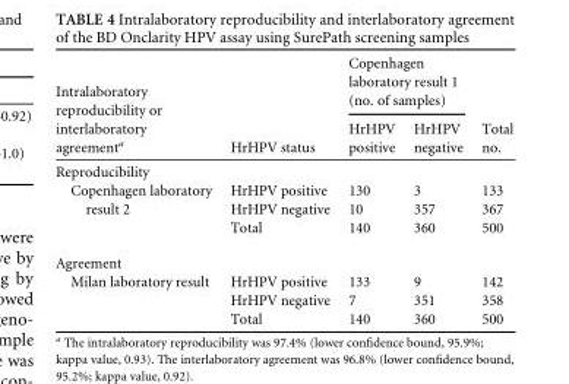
<table><thead><tr><td rowspan="2">Intralaboratory reproducibility or interlaboratory agreement<sup>a</sup></td><td rowspan="2">HrHPV status</td><td colspan="2">Copenhagen laboratory result 1 (no. of samples)</td><td rowspan="2">Total no.</td></tr><tr><td>HrHPV positive</td><td>HrHPV negative</td></tr></thead><tbody><tr><td colspan="5">Reproducibility</td></tr><tr><td rowspan="3">Copenhagen laboratory result 2</td><td>HrHPV positive</td><td>130</td><td>3</td><td>133</td></tr><tr><td>HrHPV negative</td><td>10</td><td>357</td><td>367</td></tr><tr><td>Total</td><td>140</td><td>360</td><td>500</td></tr><tr><td colspan="5">Agreement</td></tr><tr><td rowspan="3">Milan laboratory result</td><td>HrHPV positive</td><td>133</td><td>9</td><td>142</td></tr><tr><td>HrHPV negative</td><td>7</td><td>351</td><td>358</td></tr><tr><td>Total</td><td>140</td><td>360</td><td>500</td></tr></tbody></table>